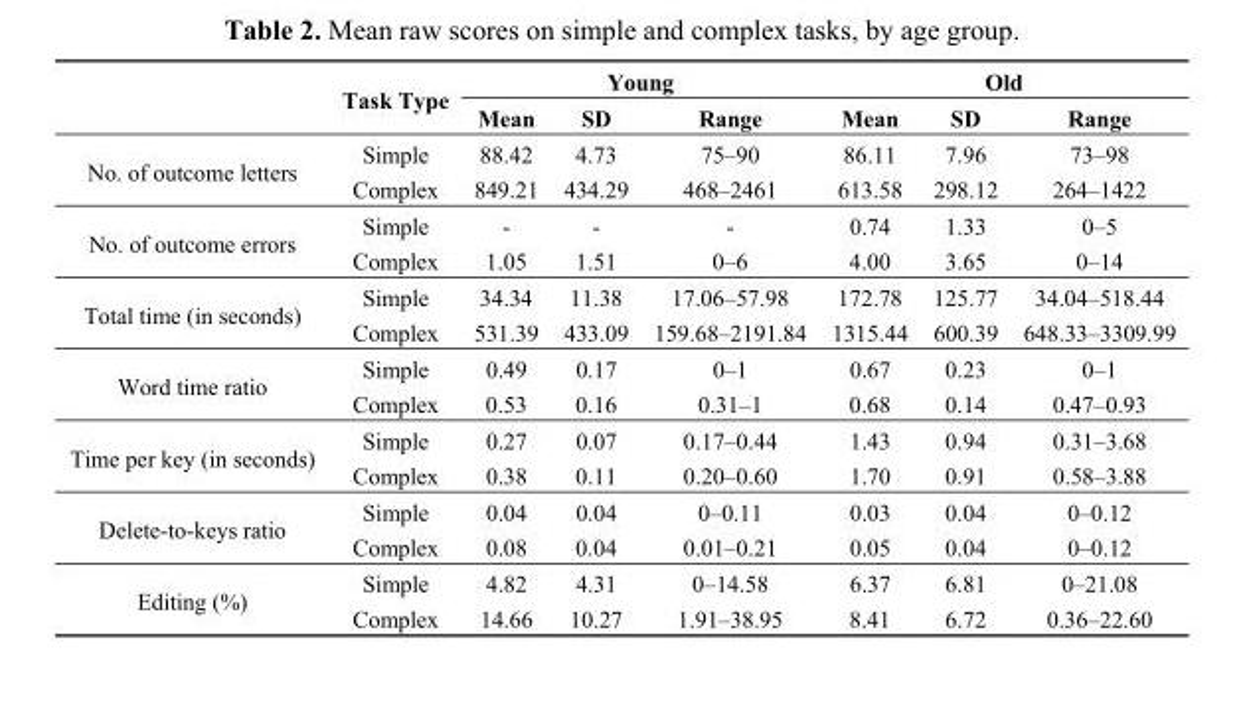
<table><thead><tr><td rowspan="2"></td><td rowspan="2">Task Type</td><td colspan="3">Young</td><td colspan="3">Old</td></tr><tr><td>Mean</td><td>SD</td><td>Range</td><td>Mean</td><td>SD</td><td>Range</td></tr></thead><tbody><tr><td rowspan="2">No. of outcome letters</td><td>Simple</td><td>88.42</td><td>4.73</td><td>75–90</td><td>86.11</td><td>7.96</td><td>73–98</td></tr><tr><td>Complex</td><td>849.21</td><td>434.29</td><td>468–2461</td><td>613.58</td><td>298.12</td><td>264–1422</td></tr><tr><td rowspan="2">No. of outcome errors</td><td>Simple</td><td>-</td><td>-</td><td>-</td><td>0.74</td><td>1.33</td><td>0–5</td></tr><tr><td>Complex</td><td>1.05</td><td>1.51</td><td>0–6</td><td>4.00</td><td>3.65</td><td>0–14</td></tr><tr><td rowspan="2">Total time (in seconds)</td><td>Simple</td><td>34.34</td><td>11.38</td><td>17.06–57.98</td><td>172.78</td><td>125.77</td><td>34.04–518.44</td></tr><tr><td>Complex</td><td>531.39</td><td>433.09</td><td>159.68–2191.84</td><td>1315.44</td><td>600.39</td><td>648.33–3309.99</td></tr><tr><td rowspan="2">Word time ratio</td><td>Simple</td><td>0.49</td><td>0.17</td><td>0–1</td><td>0.67</td><td>0.23</td><td>0–1</td></tr><tr><td>Complex</td><td>0.53</td><td>0.16</td><td>0.31–1</td><td>0.68</td><td>0.14</td><td>0.47–0.93</td></tr><tr><td rowspan="2">Time per key (in seconds)</td><td>Simple</td><td>0.27</td><td>0.07</td><td>0.17–0.44</td><td>1.43</td><td>0.94</td><td>0.31–3.68</td></tr><tr><td>Complex</td><td>0.38</td><td>0.11</td><td>0.20–0.60</td><td>1.70</td><td>0.91</td><td>0.58–3.88</td></tr><tr><td rowspan="2">Delete-to-keys ratio</td><td>Simple</td><td>0.04</td><td>0.04</td><td>0–0.11</td><td>0.03</td><td>0.04</td><td>0–0.12</td></tr><tr><td>Complex</td><td>0.08</td><td>0.04</td><td>0.01–0.21</td><td>0.05</td><td>0.04</td><td>0–0.12</td></tr><tr><td rowspan="2">Editing (%)</td><td>Simple</td><td>4.82</td><td>4.31</td><td>0–14.58</td><td>6.37</td><td>6.81</td><td>0–21.08</td></tr><tr><td>Complex</td><td>14.66</td><td>10.27</td><td>1.91–38.95</td><td>8.41</td><td>6.72</td><td>0.36–22.60</td></tr></tbody></table>